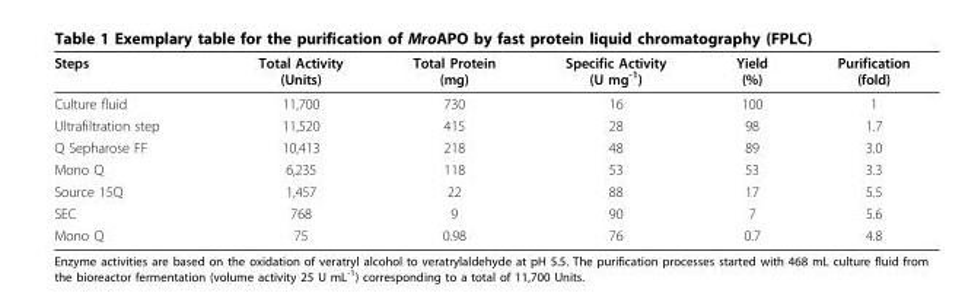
<table><thead><tr><td>Steps</td><td>Total Activity (Units)</td><td>Total Protein (mg)</td><td>Specific Activity (U mg<sup>-1</sup>)</td><td>Yield (%)</td><td>Purification (fold)</td></tr></thead><tbody><tr><td>Culture fluid</td><td>11,700</td><td>730</td><td>16</td><td>100</td><td>1</td></tr><tr><td>Ultrafiltration step</td><td>11,520</td><td>415</td><td>28</td><td>98</td><td>1.7</td></tr><tr><td>Q Sepharose FF</td><td>10,413</td><td>218</td><td>48</td><td>89</td><td>3.0</td></tr><tr><td>Mono Q</td><td>6,235</td><td>118</td><td>53</td><td>53</td><td>3.3</td></tr><tr><td>Source 15Q</td><td>1,457</td><td>22</td><td>88</td><td>17</td><td>5.5</td></tr><tr><td>SEC</td><td>768</td><td>9</td><td>90</td><td>7</td><td>5.6</td></tr><tr><td>Mono Q</td><td>75</td><td>0.98</td><td>76</td><td>0.7</td><td>4.8</td></tr></tbody></table>